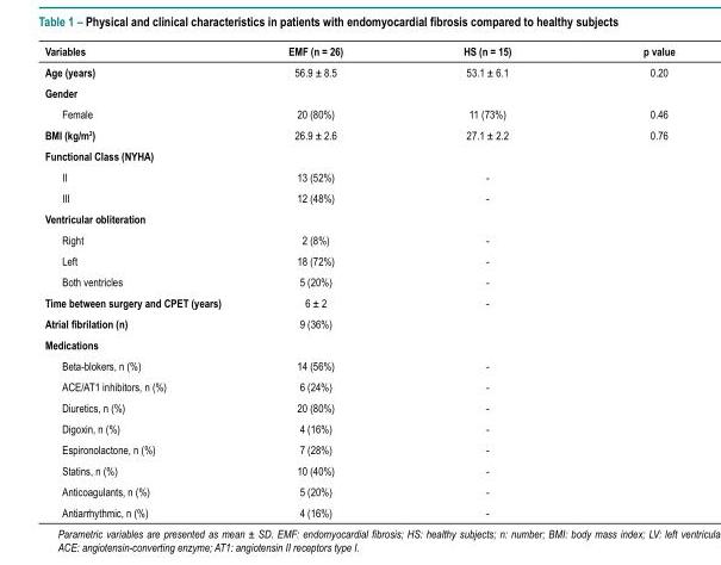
<table><thead><tr><td>Variables</td><td>EMF (n = 26)</td><td>HS (n = 15)</td><td>p value</td></tr></thead><tbody><tr><td>Age (years)</td><td>56.9 ± 8.5</td><td>53.1 ± 6.1</td><td>0.20</td></tr><tr><td colspan="4">Gender</td></tr><tr><td>Female</td><td>20 (80%)</td><td>11 (73%)</td><td>0.46</td></tr><tr><td>BMI (kg/m<sup>2</sup>)</td><td>26.9 ± 2.6</td><td>27.1 ± 2.2</td><td>0.76</td></tr><tr><td colspan="4">Functional Class (NYHA)</td></tr><tr><td>II</td><td>13 (52%)</td><td>-</td><td></td></tr><tr><td>III</td><td>12 (48%)</td><td>-</td><td></td></tr><tr><td colspan="4">Ventricular obliteration</td></tr><tr><td>Right</td><td>2 (8%)</td><td>-</td><td></td></tr><tr><td>Left</td><td>18 (72%)</td><td>-</td><td></td></tr><tr><td>Both ventricles</td><td>5 (20%)</td><td>-</td><td></td></tr><tr><td>Time between surgery and CPET (years)</td><td>6 ± 2</td><td>-</td><td></td></tr><tr><td>Atrial fibrilation (n)</td><td>9 (36%)</td><td></td><td></td></tr><tr><td colspan="4">Medications</td></tr><tr><td>Beta-blokers, n (%)</td><td>14 (56%)</td><td>-</td><td></td></tr><tr><td>ACE/AT1 inhibitors, n (%)</td><td>6 (24%)</td><td>-</td><td></td></tr><tr><td>Diuretics, n (%)</td><td>20 (80%)</td><td>-</td><td></td></tr><tr><td>Digoxin, n (%)</td><td>4 (16%)</td><td>-</td><td></td></tr><tr><td>Espironolactone, n (%)</td><td>7 (28%)</td><td>-</td><td></td></tr><tr><td>Statins, n (%)</td><td>10 (40%)</td><td>-</td><td></td></tr><tr><td>Anticoagulants, n (%)</td><td>5 (20%)</td><td>-</td><td></td></tr><tr><td>Antiarrhythmic, n (%)</td><td>4 (16%)</td><td>-</td><td></td></tr></tbody></table>